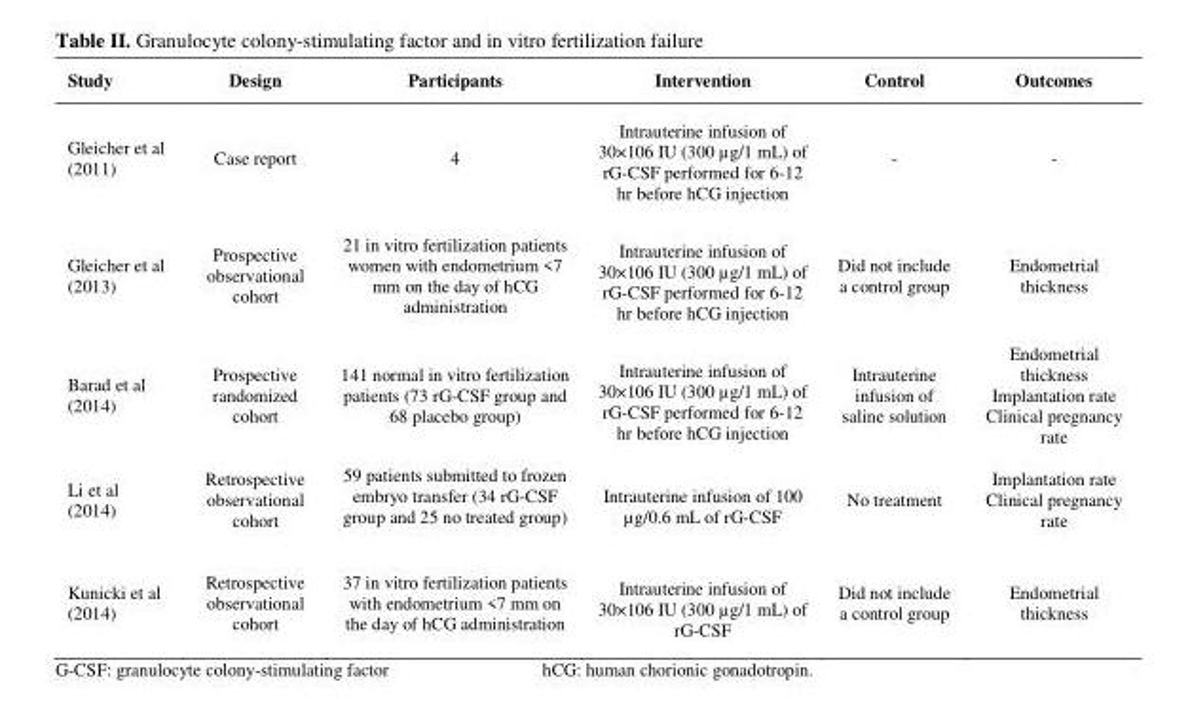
<table><thead><tr><td>Study</td><td>Design</td><td>Participants</td><td>Intervention</td><td>Control</td><td>Outcomes</td></tr></thead><tbody><tr><td>Gleicher et al (2011)</td><td>Case report</td><td>4</td><td>Intrauterine infusion of 30×106 IU (300 µg/1 mL) of rG-CSF performed for 6-12 hr before hCG injection</td><td>-</td><td>-</td></tr><tr><td>Gleicher et al (2013)</td><td>Prospective observational cohort</td><td>21 in vitro fertilization patients women with endometrium &lt;7 mm on the day of hCG administration</td><td>Intrauterine infusion of 30×106 IU (300 µg/1 mL) of rG-CSF performed for 6-12 hr before hCG injection</td><td>Did not include a control group</td><td>Endometrial thickness</td></tr><tr><td>Barad et al (2014)</td><td>Prospective randomized cohort</td><td>141 normal in vitro fertilization patients (73 rG-CSF group and 68 placebo group)</td><td>Intrauterine infusion of 30×106 IU (300 µg/1 mL) of rG-CSF performed for 6-12 hr before hCG injection</td><td>Intrauterine infusion of saline solution</td><td>Endometrial thickness Implantation rate Clinical pregnancy rate</td></tr><tr><td>Li et al (2014)</td><td>Retrospective observational cohort</td><td>59 patients submitted to frozen embryo transfer (34 rG-CSF group and 25 no treated group)</td><td>Intrauterine infusion of 100 µg/0.6 mL of rG-CSF</td><td>No treatment</td><td>Implantation rate Clinical pregnancy rate</td></tr><tr><td>Kunicki et al (2014)</td><td>Retrospective observational cohort</td><td>37 in vitro fertilization patients with endometrium &lt;7 mm on the day of hCG administration</td><td>Intrauterine infusion of 30×106 IU (300 µg/1 mL) of rG-CSF</td><td>Did not include a control group</td><td>Endometrial thickness</td></tr></tbody></table>